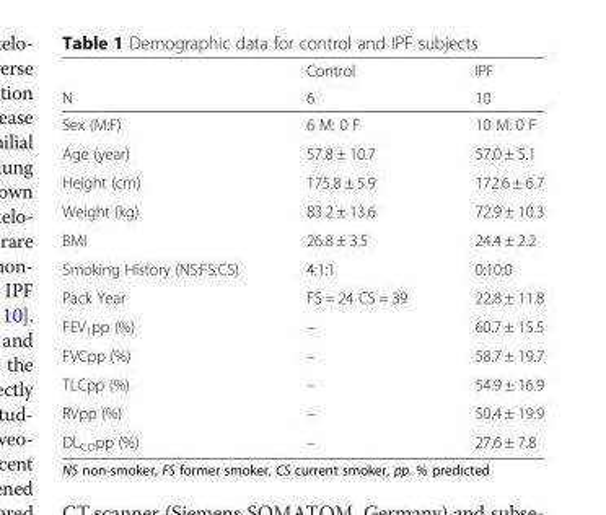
<table><thead><tr><td rowspan="2">N</td><td rowspan="2">Control 6</td><td rowspan="2">IPF 10</td></tr><tr></tr></thead><tbody><tr><td>Sex (M:F)</td><td>6 M: 0 F</td><td>10 M: 0 F</td></tr><tr><td>Age (year)</td><td>57.8 ± 10.7</td><td>57.0 ± 5.1</td></tr><tr><td>Height (cm)</td><td>175.8 ± 5.9</td><td>172.6 ± 6.7</td></tr><tr><td>Weight (kg)</td><td>83.2 ± 13.6</td><td>72.9 ± 10.3</td></tr><tr><td>BMI</td><td>26.8 ± 3.5</td><td>24.4 ± 2.2</td></tr><tr><td>Smoking History (NS:FS:CS)</td><td>4:1:1</td><td>0:10:0</td></tr><tr><td>Pack Year</td><td>FS = 24 CS = 39</td><td>22.8 ± 11.8</td></tr><tr><td>FEV<sub>1</sub>pp (%)</td><td>–</td><td>60.7 ± 15.5</td></tr><tr><td>FVCpp (%)</td><td>–</td><td>58.7 ± 19.7</td></tr><tr><td>TLCpp (%)</td><td>–</td><td>54.9 ± 16.9</td></tr><tr><td>RVpp (%)</td><td>–</td><td>50.4 ± 19.9</td></tr><tr><td>DL<sub>CO</sub>pp (%)</td><td>–</td><td>27.6 ± 7.8</td></tr></tbody></table>